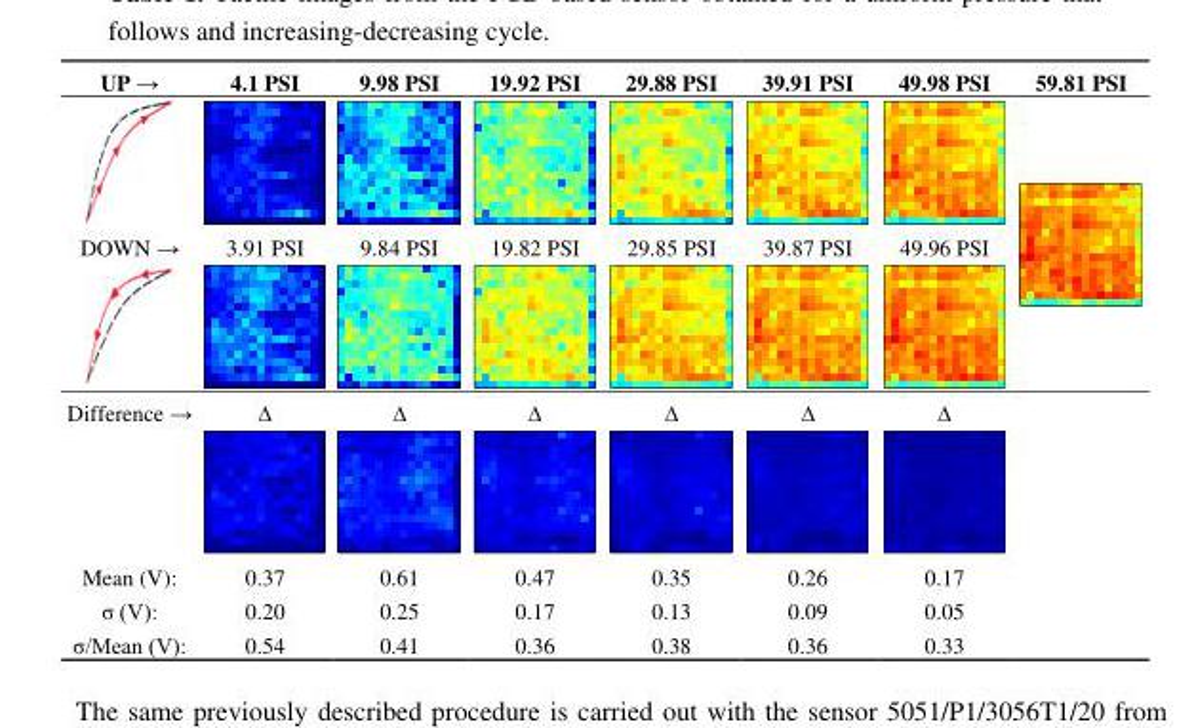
<table><thead><tr><td>UP →</td><td>4.1 PSI</td><td>9.98 PSI</td><td>19.92 PSI</td><td>29.88 PSI</td><td>39.91 PSI</td><td>49.98 PSI</td><td>59.81 PSI</td></tr></thead><tbody><tr><td>DOWN →</td><td>3.91 PSI</td><td>9.84 PSI</td><td>19.82 PSI</td><td>29.85 PSI</td><td>39.87 PSI</td><td>49.96 PSI</td><td></td></tr><tr><td>Difference →</td><td>∆</td><td>∆</td><td>∆</td><td>∆</td><td>∆</td><td>∆</td><td rowspan="4"></td></tr><tr><td>Mean (V):</td><td>0.37</td><td>0.61</td><td>0.47</td><td>0.35</td><td>0.26</td><td>0.17</td></tr><tr><td>σ (V):</td><td>0.20</td><td>0.25</td><td>0.17</td><td>0.13</td><td>0.09</td><td>0.05</td></tr><tr><td>σ/Mean (V):</td><td>0.54</td><td>0.41</td><td>0.36</td><td>0.38</td><td>0.36</td><td>0.33</td></tr></tbody></table>